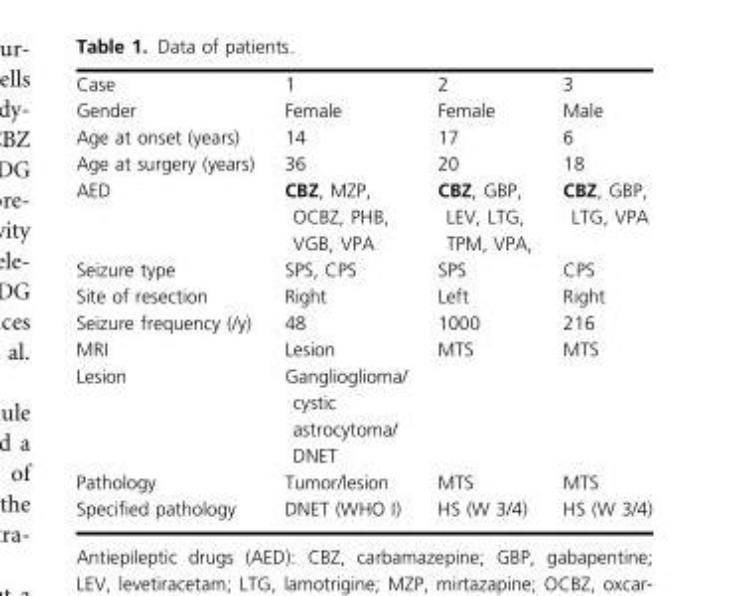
<table><tbody><tr><td>Case</td><td>1</td><td>2</td><td>3</td></tr><tr><td>Gender</td><td>Female</td><td>Female</td><td>Male</td></tr><tr><td>Age at onset (years)</td><td>14</td><td>17</td><td>6</td></tr><tr><td>Age at surgery (years)</td><td>36</td><td>20</td><td>18</td></tr><tr><td>AED</td><td>CBZ, MZP, OCBZ, PHB, VGB, VPA</td><td>CBZ, GBP, LEV, LTG, TPM, VPA,</td><td>CBZ, GBP, LTG, VPA</td></tr><tr><td>Seizure type</td><td>SPS, CPS</td><td>SPS</td><td>CPS</td></tr><tr><td>Site of resection</td><td>Right</td><td>Left</td><td>Right</td></tr><tr><td>Seizure frequency (/y)</td><td>48</td><td>1000</td><td>216</td></tr><tr><td>MRI</td><td>Lesion</td><td>MTS</td><td>MTS</td></tr><tr><td>Lesion</td><td>Ganglioglioma/ cystic astrocytoma/ DNET</td><td></td><td></td></tr><tr><td>Pathology</td><td>Tumor/lesion</td><td>MTS</td><td>MTS</td></tr><tr><td>Specified pathology</td><td>DNET (WHO I)</td><td>HS (W 3/4)</td><td>HS (W 3/4)</td></tr></tbody></table>